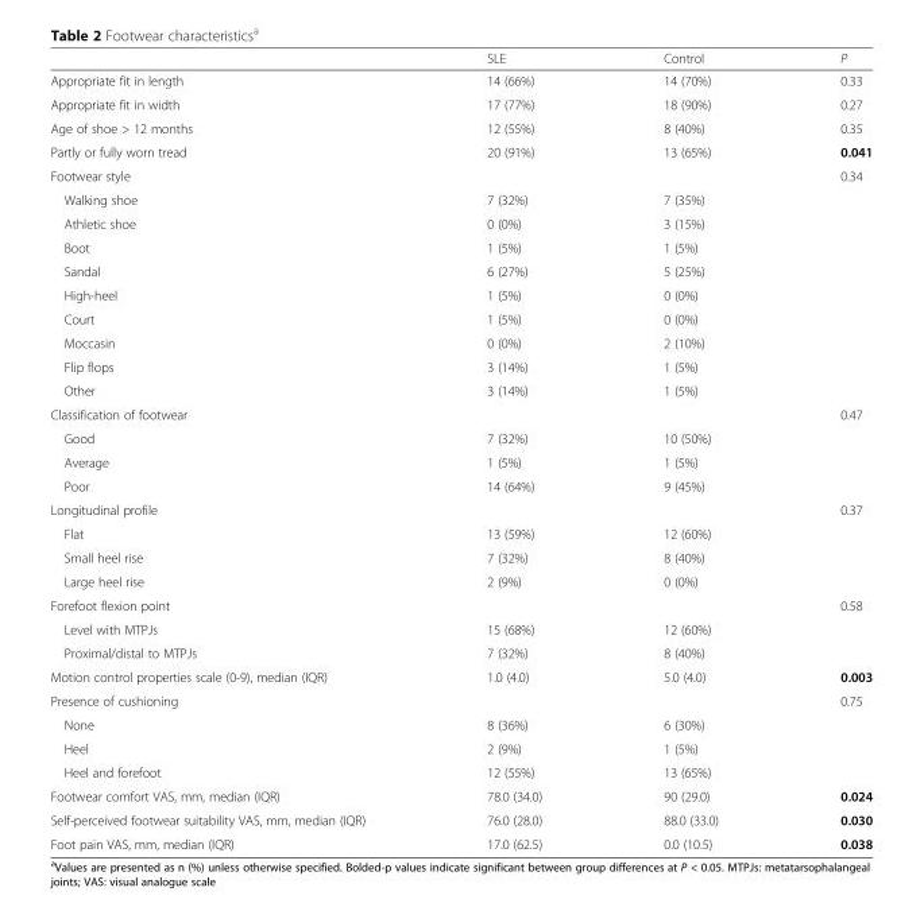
<table><thead><tr><td></td><td>SLE</td><td>Control</td><td>P</td></tr></thead><tbody><tr><td>Appropriate fit in length</td><td>14 (66%)</td><td>14 (70%)</td><td>0.33</td></tr><tr><td>Appropriate fit in width</td><td>17 (77%)</td><td>18 (90%)</td><td>0.27</td></tr><tr><td>Age of shoe &gt; 12 months</td><td>12 (55%)</td><td>8 (40%)</td><td>0.35</td></tr><tr><td>Partly or fully worn tread</td><td>20 (91%)</td><td>13 (65%)</td><td>0.041</td></tr><tr><td colspan="3">Footwear style</td><td>0.34</td></tr><tr><td>Walking shoe</td><td>7 (32%)</td><td>7 (35%)</td><td></td></tr><tr><td>Athletic shoe</td><td>0 (0%)</td><td>3 (15%)</td><td></td></tr><tr><td>Boot</td><td>1 (5%)</td><td>1 (5%)</td><td></td></tr><tr><td>Sandal</td><td>6 (27%)</td><td>5 (25%)</td><td></td></tr><tr><td>High-heel</td><td>1 (5%)</td><td>0 (0%)</td><td></td></tr><tr><td>Court</td><td>1 (5%)</td><td>0 (0%)</td><td></td></tr><tr><td>Moccasin</td><td>0 (0%)</td><td>2 (10%)</td><td></td></tr><tr><td>Flip flops</td><td>3 (14%)</td><td>1 (5%)</td><td></td></tr><tr><td>Other</td><td>3 (14%)</td><td>1 (5%)</td><td></td></tr><tr><td colspan="3">Classification of footwear</td><td>0.47</td></tr><tr><td>Good</td><td>7 (32%)</td><td>10 (50%)</td><td></td></tr><tr><td>Average</td><td>1 (5%)</td><td>1 (5%)</td><td></td></tr><tr><td>Poor</td><td>14 (64%)</td><td>9 (45%)</td><td></td></tr><tr><td colspan="3">Longitudinal profile</td><td>0.37</td></tr><tr><td>Flat</td><td>13 (59%)</td><td>12 (60%)</td><td></td></tr><tr><td>Small heel rise</td><td>7 (32%)</td><td>8 (40%)</td><td></td></tr><tr><td>Large heel rise</td><td>2 (9%)</td><td>0 (0%)</td><td></td></tr><tr><td colspan="3">Forefoot flexion point</td><td rowspan="3">0.58</td></tr><tr><td>Level with MTPJs</td><td>15 (68%)</td><td>12 (60%)</td></tr><tr><td>Proximal/distal to MTPJs</td><td>7 (32%)</td><td>8 (40%)</td></tr><tr><td>Motion control properties scale (0-9), median (IQR)</td><td>1.0 (4.0)</td><td>5.0 (4.0)</td><td>0.003</td></tr><tr><td colspan="3">Presence of cushioning</td><td rowspan="4">0.75</td></tr><tr><td>None</td><td>8 (36%)</td><td>6 (30%)</td></tr><tr><td>Heel</td><td>2 (9%)</td><td>1 (5%)</td></tr><tr><td>Heel and forefoot</td><td>12 (55%)</td><td>13 (65%)</td></tr><tr><td>Footwear comfort VAS, mm, median (IQR)</td><td>78.0 (34.0)</td><td>90 (29.0)</td><td>0.024</td></tr><tr><td>Self-perceived footwear suitability VAS, mm, median (IQR)</td><td>76.0 (28.0)</td><td>88.0 (33.0)</td><td>0.030</td></tr><tr><td>Foot pain VAS, mm, median (IQR)</td><td>17.0 (62.5)</td><td>0.0 (10.5)</td><td>0.038</td></tr></tbody></table>